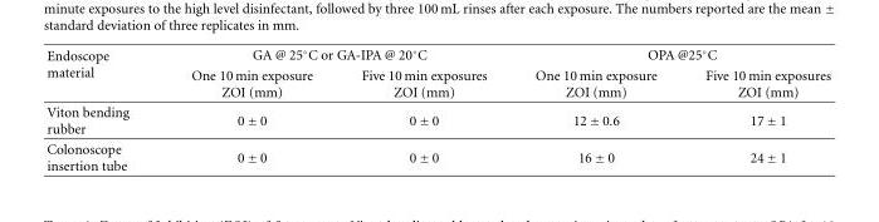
<table><thead><tr><td rowspan="2">Endoscope material</td><td colspan="2">GA @ 25◦C or GA-IPA @ 20◦C</td><td colspan="2">OPA @25◦C</td></tr><tr><td>One 10 min exposure ZOI (mm)</td><td>Five 10 min exposures ZOI (mm)</td><td>One 10 min exposure ZOI (mm)</td><td>Five 10 min exposures ZOI (mm)</td></tr></thead><tbody><tr><td>Viton bending rubber</td><td>0 ± 0</td><td>0 ± 0</td><td>12 ± 0.6</td><td>17 ± 1</td></tr><tr><td>Colonoscope insertion tube</td><td>0 ± 0</td><td>0 ± 0</td><td>16 ± 0</td><td>24 ± 1</td></tr></tbody></table>